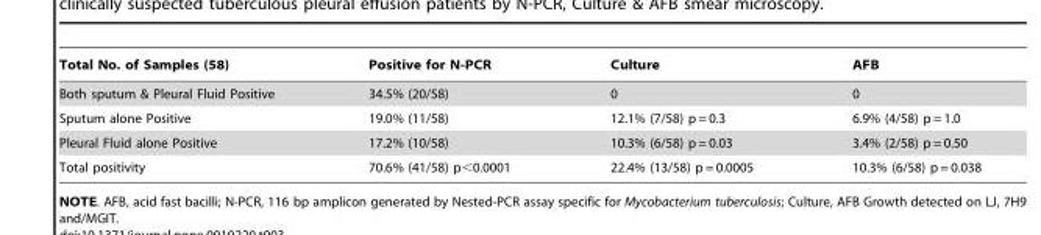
<table><thead><tr><td>Total No. of Samples (58)</td><td>Positive for N-PCR</td><td>Culture</td><td>AFB</td></tr></thead><tbody><tr><td>Both sputum &amp; Pleural Fluid Positive</td><td>34.5% (20/58)</td><td>0</td><td>0</td></tr><tr><td>Sputum alone Positive</td><td>19.0% (11/58)</td><td>12.1% (7/58) p = 0.3</td><td>6.9% (4/58) p = 1.0</td></tr><tr><td>Pleural Fluid alone Positive</td><td>17.2% (10/58)</td><td>10.3% (6/58) p = 0.03</td><td>3.4% (2/58) p = 0.50</td></tr><tr><td>Total positivity</td><td>70.6% (41/58) p&lt;0.0001</td><td>22.4% (13/58) p = 0.0005</td><td>10.3% (6/58) p = 0.038</td></tr></tbody></table>